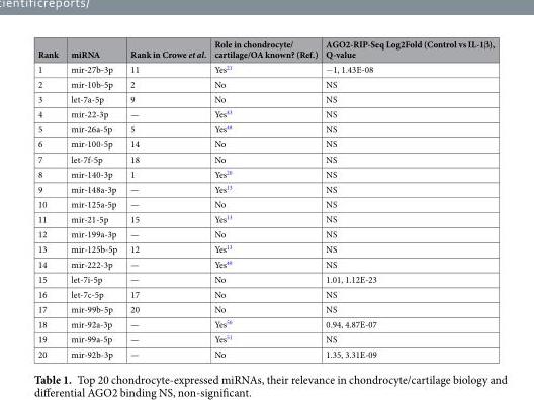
<table><thead><tr><td>Rank</td><td>miRNA</td><td>Rank in Crowe et al.</td><td>Role in chondrocyte/ cartilage/OA known? (Ref.)</td><td>AGO2-RIP-Seq Log2Fold (Control vs IL-1β), Q-value</td></tr></thead><tbody><tr><td>1</td><td>mir-27b-3p</td><td>11</td><td>Yes<sup>21</sup></td><td>−1, 1.43E-08</td></tr><tr><td>2</td><td>mir-10b-5p</td><td>2</td><td>No</td><td>NS</td></tr><tr><td>3</td><td>let-7a-5p</td><td>9</td><td>No</td><td>NS</td></tr><tr><td>4</td><td>mir-22-3p</td><td>—</td><td>Yes<sup>43</sup></td><td>NS</td></tr><tr><td>5</td><td>mir-26a-5p</td><td>5</td><td>Yes<sup>48</sup></td><td>NS</td></tr><tr><td>6</td><td>mir-100-5p</td><td>14</td><td>No</td><td>NS</td></tr><tr><td>7</td><td>let-7f-5p</td><td>18</td><td>No</td><td>NS</td></tr><tr><td>8</td><td>mir-140-3p</td><td>1</td><td>Yes<sup>20</sup></td><td>NS</td></tr><tr><td>9</td><td>mir-148a-3p</td><td>—</td><td>Yes<sup>13</sup></td><td>NS</td></tr><tr><td>10</td><td>mir-125a-5p</td><td>—</td><td>No</td><td>NS</td></tr><tr><td>11</td><td>mir-21-5p</td><td>15</td><td>Yes<sup>13</sup></td><td>NS</td></tr><tr><td>12</td><td>mir-199a-3p</td><td>—</td><td>No</td><td>NS</td></tr><tr><td>13</td><td>mir-125b-5p</td><td>12</td><td>Yes<sup>13</sup></td><td>NS</td></tr><tr><td>14</td><td>mir-222-3p</td><td>—</td><td>Yes<sup>49</sup></td><td>NS</td></tr><tr><td>15</td><td>let-7i-5p</td><td>—</td><td>No</td><td>1.01, 1.12E-23</td></tr><tr><td>16</td><td>let-7c-5p</td><td>17</td><td>No</td><td>NS</td></tr><tr><td>17</td><td>mir-99b-5p</td><td>20</td><td>No</td><td>NS</td></tr><tr><td>18</td><td>mir-92a-3p</td><td>—</td><td>Yes<sup>50</sup></td><td>0.94, 4.87E-07</td></tr><tr><td>19</td><td>mir-99a-5p</td><td>—</td><td>Yes<sup>51</sup></td><td>NS</td></tr><tr><td>20</td><td>mir-92b-3p</td><td>—</td><td>No</td><td>1.35, 3.31E-09</td></tr></tbody></table>